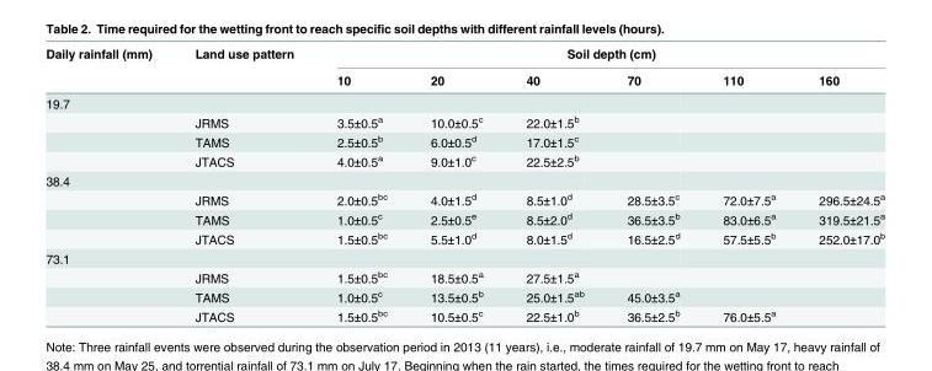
<table><thead><tr><td rowspan="2">Daily rainfall (mm)</td><td rowspan="2">Land use pattern</td><td colspan="6">Soil depth (cm)</td></tr><tr><td>10</td><td>20</td><td>40</td><td>70</td><td>110</td><td>160</td></tr></thead><tbody><tr><td colspan="8">19.7</td></tr><tr><td></td><td>JRMS</td><td>3.5±0.5<sup>a</sup></td><td>10.0±0.5<sup>c</sup></td><td>22.0±1.5<sup>b</sup></td><td></td><td></td><td></td></tr><tr><td></td><td>TAMS</td><td>2.5±0.5<sup>b</sup></td><td>6.0±0.5<sup>d</sup></td><td>17.0±1.5<sup>c</sup></td><td></td><td></td><td></td></tr><tr><td></td><td>JTACS</td><td>4.0±0.5<sup>a</sup></td><td>9.0±1.0<sup>c</sup></td><td>22.5±2.5<sup>b</sup></td><td></td><td></td><td></td></tr><tr><td colspan="8">38.4</td></tr><tr><td></td><td>JRMS</td><td>2.0±0.5<sup>bc</sup></td><td>4.0±1.5<sup>d</sup></td><td>8.5±1.0<sup>d</sup></td><td>28.5±3.5<sup>c</sup></td><td>72.0±7.5<sup>a</sup></td><td>296.5±24.5<sup>a</sup></td></tr><tr><td></td><td>TAMS</td><td>1.0±0.5<sup>c</sup></td><td>2.5±0.5<sup>e</sup></td><td>8.5±2.0<sup>d</sup></td><td>36.5±3.5<sup>b</sup></td><td>83.0±6.5<sup>a</sup></td><td>319.5±21.5<sup>a</sup></td></tr><tr><td></td><td>JTACS</td><td>1.5±0.5<sup>bc</sup></td><td>5.5±1.0<sup>d</sup></td><td>8.0±1.5<sup>d</sup></td><td>16.5±2.5<sup>d</sup></td><td>57.5±5.5<sup>b</sup></td><td>252.0±17.0<sup>b</sup></td></tr><tr><td colspan="8">73.1</td></tr><tr><td></td><td>JRMS</td><td>1.5±0.5<sup>bc</sup></td><td>18.5±0.5<sup>a</sup></td><td>27.5±1.5<sup>a</sup></td><td></td><td></td><td></td></tr><tr><td></td><td>TAMS</td><td>1.0±0.5<sup>c</sup></td><td>13.5±0.5<sup>b</sup></td><td>25.0±1.5<sup>ab</sup></td><td>45.0±3.5<sup>a</sup></td><td></td><td></td></tr><tr><td></td><td>JTACS</td><td>1.5±0.5<sup>bc</sup></td><td>10.5±0.5<sup>c</sup></td><td>22.5±1.0<sup>b</sup></td><td>36.5±2.5<sup>b</sup></td><td>76.0±5.5<sup>a</sup></td><td></td></tr></tbody></table>